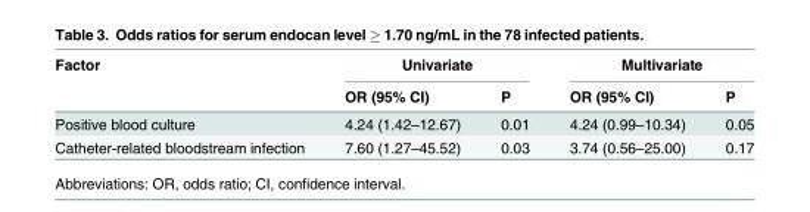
<table><thead><tr><td rowspan="2">Factor</td><td colspan="2">Univariate</td><td colspan="2">Multivariate</td></tr><tr><td>OR (95% CI)</td><td>P</td><td>OR (95% CI)</td><td>P</td></tr></thead><tbody><tr><td>Positive blood culture</td><td>4.24 (1.42–12.67)</td><td>0.01</td><td>4.24 (0.99–10.34)</td><td>0.05</td></tr><tr><td>Catheter-related bloodstream infection</td><td>7.60 (1.27–45.52)</td><td>0.03</td><td>3.74 (0.56–25.00)</td><td>0.17</td></tr></tbody></table>